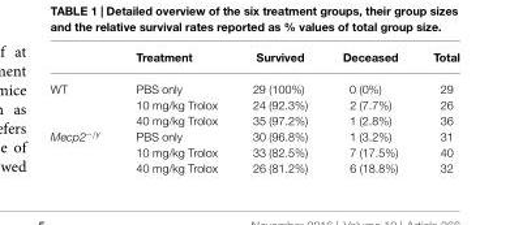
<table><thead><tr><td></td><td>Treatment</td><td>Survived</td><td>Deceased</td><td>Total</td></tr></thead><tbody><tr><td rowspan="3">WT</td><td>PBS only</td><td>29 (100%)</td><td>0 (0%)</td><td>29</td></tr><tr><td>10 mg/kg Trolox</td><td>24 (92.3%)</td><td>2 (7.7%)</td><td>26</td></tr><tr><td>40 mg/kg Trolox</td><td>35 (97.2%)</td><td>1 (2.8%)</td><td>36</td></tr><tr><td rowspan="3">Mecp2<sup>−/y</sup></td><td>PBS only</td><td>30 (96.8%)</td><td>1 (3.2%)</td><td>31</td></tr><tr><td>10 mg/kg Trolox</td><td>33 (82.5%)</td><td>7 (17.5%)</td><td>40</td></tr><tr><td>40 mg/kg Trolox</td><td>26 (81.2%)</td><td>6 (18.8%)</td><td>32</td></tr></tbody></table>